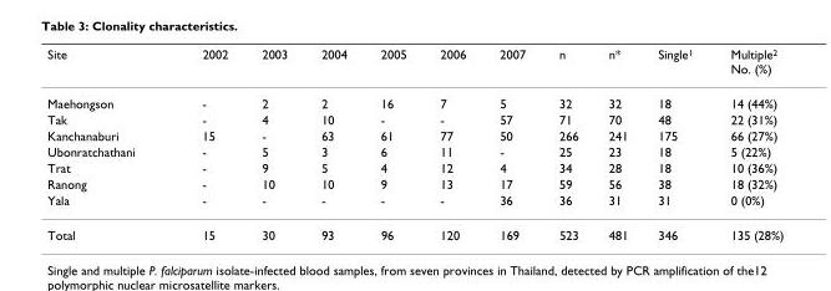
<table><thead><tr><td>Site</td><td>2002</td><td>2003</td><td>2004</td><td>2005</td><td>2006</td><td>2007</td><td>n</td><td>n*</td><td>Single<sup>1</sup></td><td>Multiple<sup>2</sup> No. (%)</td></tr></thead><tbody><tr><td>Maehongson</td><td>-</td><td>2</td><td>2</td><td>16</td><td>7</td><td>5</td><td>32</td><td>32</td><td>18</td><td>14 (44%)</td></tr><tr><td>Tak</td><td>-</td><td>4</td><td>10</td><td>-</td><td>-</td><td>57</td><td>71</td><td>70</td><td>48</td><td>22 (31%)</td></tr><tr><td>Kanchanaburi</td><td>15</td><td>-</td><td>63</td><td>61</td><td>77</td><td>50</td><td>266</td><td>241</td><td>175</td><td>66 (27%)</td></tr><tr><td>Ubonratchathani</td><td>-</td><td>5</td><td>3</td><td>6</td><td>11</td><td>-</td><td>25</td><td>23</td><td>18</td><td>5 (22%)</td></tr><tr><td>Trat</td><td>-</td><td>9</td><td>5</td><td>4</td><td>12</td><td>4</td><td>34</td><td>28</td><td>18</td><td>10 (36%)</td></tr><tr><td>Ranong</td><td>-</td><td>10</td><td>10</td><td>9</td><td>13</td><td>17</td><td>59</td><td>56</td><td>38</td><td>18 (32%)</td></tr><tr><td>Yala</td><td>-</td><td>-</td><td>-</td><td>-</td><td>-</td><td>36</td><td>36</td><td>31</td><td>31</td><td>0 (0%)</td></tr><tr><td>Total</td><td>15</td><td>30</td><td>93</td><td>96</td><td>120</td><td>169</td><td>523</td><td>481</td><td>346</td><td>135 (28%)</td></tr></tbody></table>